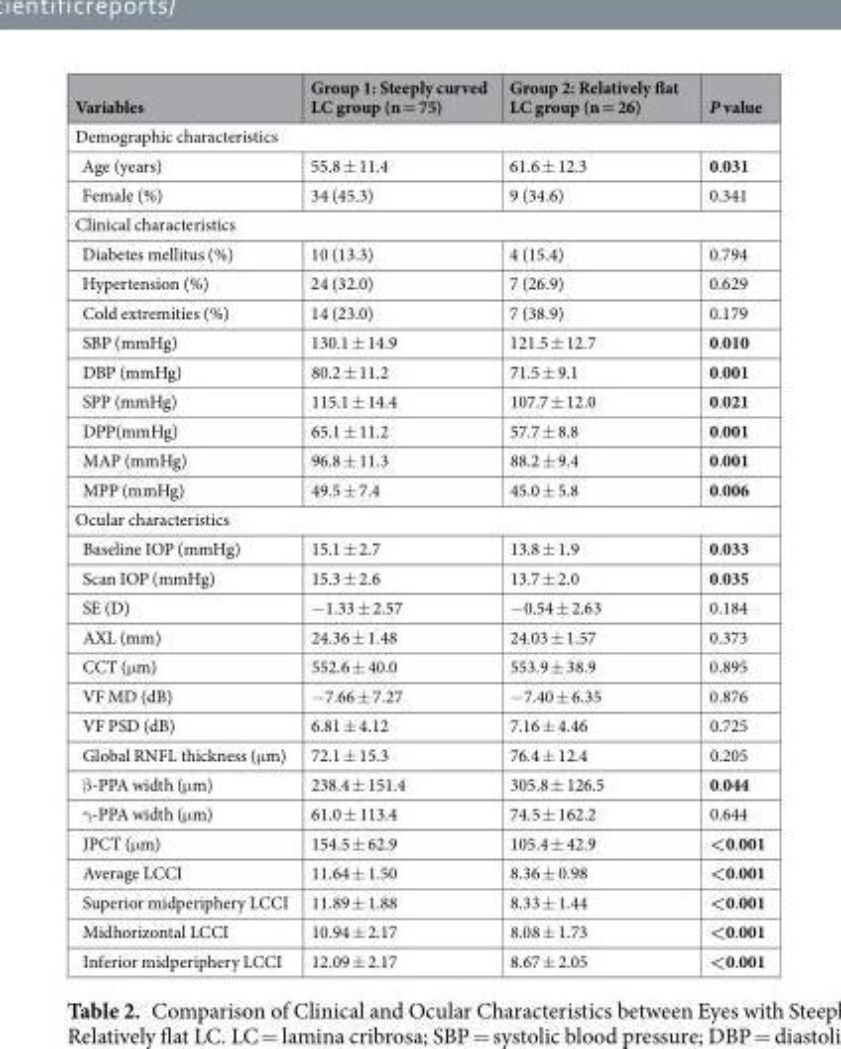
<table><thead><tr><td>Variables</td><td>Group 1: Steeply curved LC group (n = 75)</td><td>Group 2: Relatively flat LC group (n = 26)</td><td>P value</td></tr></thead><tbody><tr><td colspan="4">Demographic characteristics</td></tr><tr><td>Age (years)</td><td>55.8 ± 11.4</td><td>61.6 ± 12.3</td><td>0.031</td></tr><tr><td>Female (%)</td><td>34 (45.3)</td><td>9 (34.6)</td><td>0.341</td></tr><tr><td colspan="4">Clinical characteristics</td></tr><tr><td>Diabetes mellitus (%)</td><td>10 (13.3)</td><td>4 (15.4)</td><td>0.794</td></tr><tr><td>Hypertension (%)</td><td>24 (32.0)</td><td>7 (26.9)</td><td>0.629</td></tr><tr><td>Cold extremities (%)</td><td>14 (23.0)</td><td>7 (38.9)</td><td>0.179</td></tr><tr><td>SBP (mmHg)</td><td>130.1 ± 14.9</td><td>121.5 ± 12.7</td><td>0.010</td></tr><tr><td>DBP (mmHg)</td><td>80.2 ± 11.2</td><td>71.5 ± 9.1</td><td>0.001</td></tr><tr><td>SPP (mmHg)</td><td>115.1 ± 14.4</td><td>107.7 ± 12.0</td><td>0.021</td></tr><tr><td>DPP(mmHg)</td><td>65.1 ± 11.2</td><td>57.7 ± 8.8</td><td>0.001</td></tr><tr><td>MAP (mmHg)</td><td>96.8 ± 11.3</td><td>88.2 ± 9.4</td><td>0.001</td></tr><tr><td>MPP (mmHg)</td><td>49.5 ± 7.4</td><td>45.0 ± 5.8</td><td>0.006</td></tr><tr><td colspan="4">Ocular characteristics</td></tr><tr><td>Baseline IOP (mmHg)</td><td>15.1 ± 2.7</td><td>13.8 ± 1.9</td><td>0.033</td></tr><tr><td>Scan IOP (mmHg)</td><td>15.3 ± 2.6</td><td>13.7 ± 2.0</td><td>0.035</td></tr><tr><td>SE (D)</td><td>−1.33 ± 2.57</td><td>−0.54 ± 2.63</td><td>0.184</td></tr><tr><td>AXL (mm)</td><td>24.36 ± 1.48</td><td>24.03 ± 1.57</td><td>0.373</td></tr><tr><td>CCT (μm)</td><td>552.6 ± 40.0</td><td>553.9 ± 38.9</td><td>0.895</td></tr><tr><td>VF MD (dB)</td><td>−7.66 ± 7.27</td><td>−7.40 ± 6.35</td><td>0.876</td></tr><tr><td>VF PSD (dB)</td><td>6.81 ± 4.12</td><td>7.16 ± 4.46</td><td>0.725</td></tr><tr><td>Global RNFL thickness (μm)</td><td>72.1 ± 15.3</td><td>76.4 ± 12.4</td><td>0.205</td></tr><tr><td>β-PPA width (μm)</td><td>238.4 ± 151.4</td><td>305.8 ± 126.5</td><td>0.044</td></tr><tr><td>γ-PPA width (μm)</td><td>61.0 ± 113.4</td><td>74.5 ± 162.2</td><td>0.644</td></tr><tr><td>JPCT (μm)</td><td>154.5 ± 62.9</td><td>105.4 ± 42.9</td><td>&lt;0.001</td></tr><tr><td>Average LCCI</td><td>11.64 ± 1.50</td><td>8.36 ± 0.98</td><td>&lt;0.001</td></tr><tr><td>Superior midperiphery LCCI</td><td>11.89 ± 1.88</td><td>8.33 ± 1.44</td><td>&lt;0.001</td></tr><tr><td>Midhorizontal LCCI</td><td>10.94 ± 2.17</td><td>8.08 ± 1.73</td><td>&lt;0.001</td></tr><tr><td>Inferior midperiphery LCCI</td><td>12.09 ± 2.17</td><td>8.67 ± 2.05</td><td>&lt;0.001</td></tr></tbody></table>